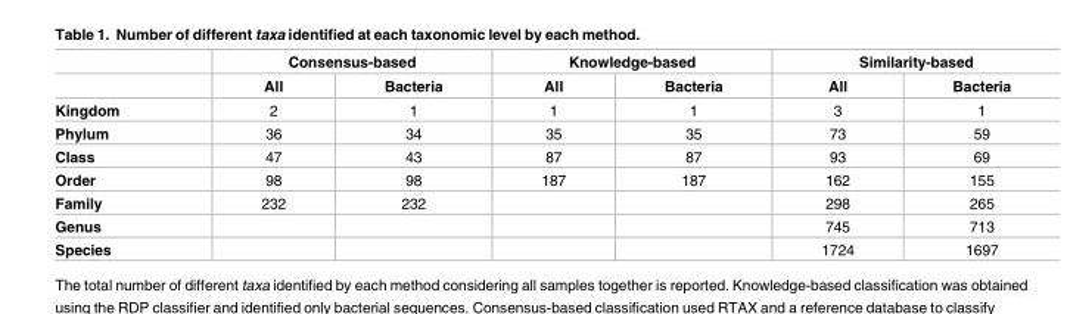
<table><thead><tr><td rowspan="2"></td><td colspan="2">Consensus-based</td><td colspan="2">Knowledge-based</td><td colspan="2">Similarity-based</td></tr><tr><td>All</td><td>Bacteria</td><td>All</td><td>Bacteria</td><td>All</td><td>Bacteria</td></tr></thead><tbody><tr><td>Kingdom</td><td>2</td><td>1</td><td>1</td><td>1</td><td>3</td><td>1</td></tr><tr><td>Phylum</td><td>36</td><td>34</td><td>35</td><td>35</td><td>73</td><td>59</td></tr><tr><td>Class</td><td>47</td><td>43</td><td>87</td><td>87</td><td>93</td><td>69</td></tr><tr><td>Order</td><td>98</td><td>98</td><td>187</td><td>187</td><td>162</td><td>155</td></tr><tr><td>Family</td><td>232</td><td>232</td><td></td><td></td><td>298</td><td>265</td></tr><tr><td>Genus</td><td></td><td></td><td></td><td></td><td>745</td><td>713</td></tr><tr><td>Species</td><td></td><td></td><td></td><td></td><td>1724</td><td>1697</td></tr></tbody></table>